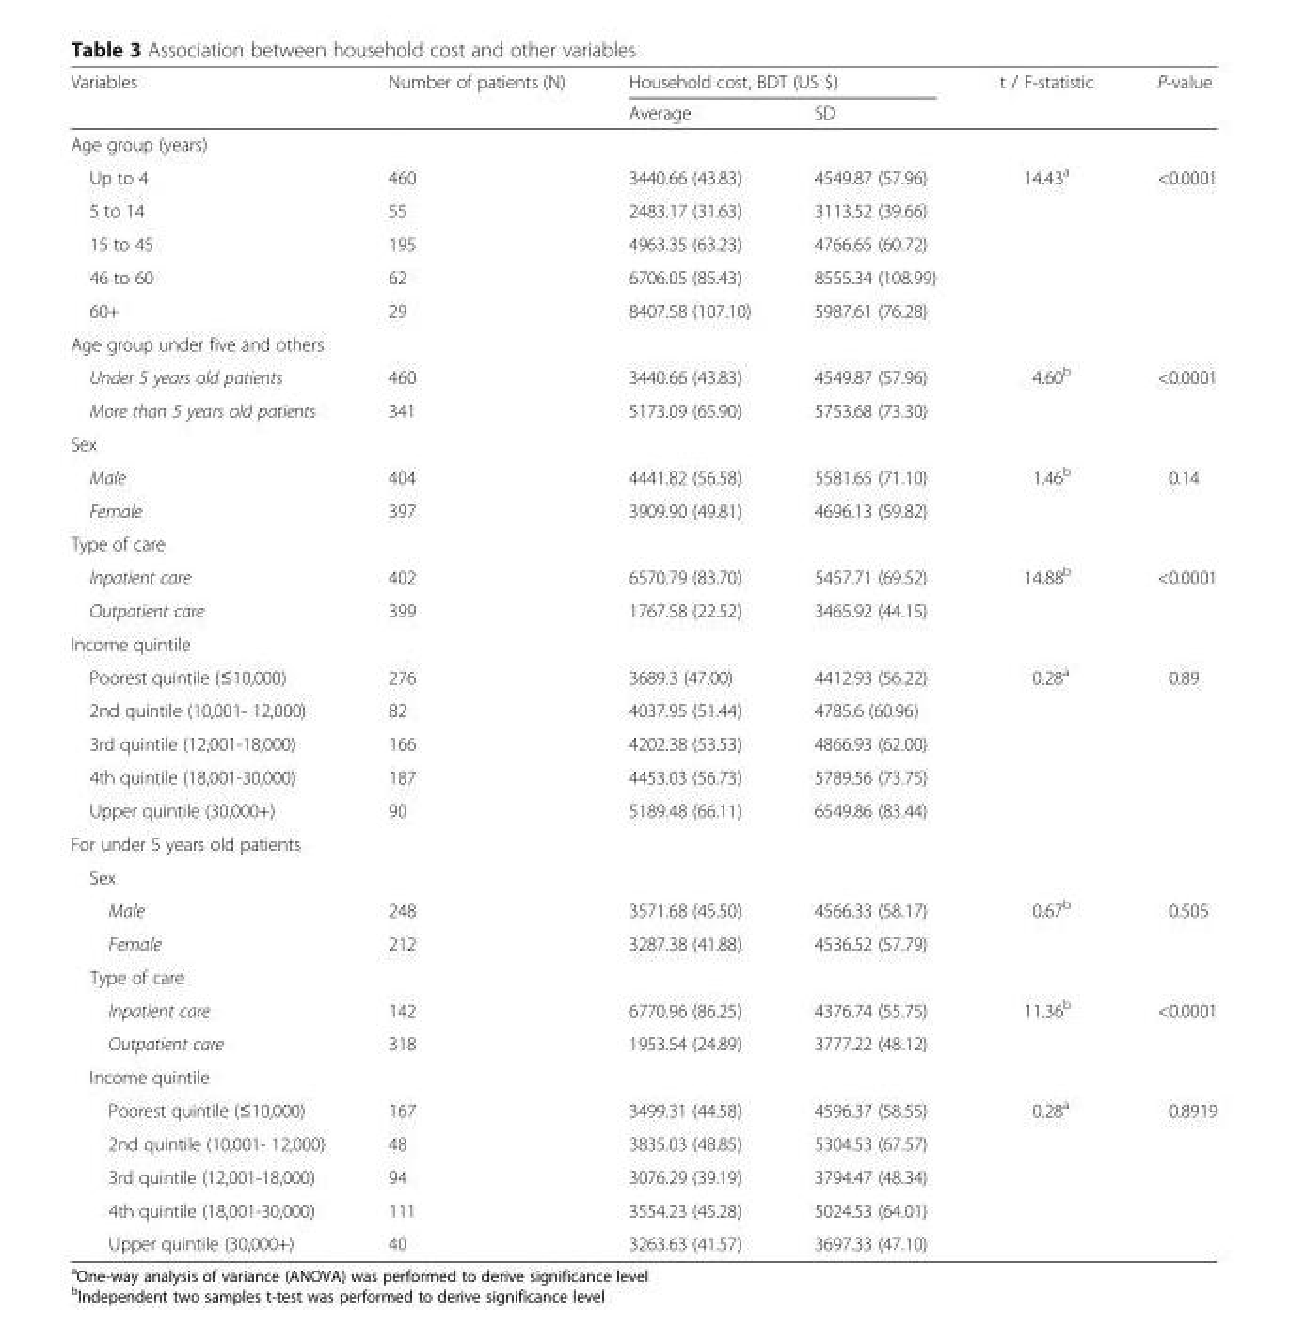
<table><thead><tr><td rowspan="2">Variables</td><td rowspan="2">Number of patients (N)</td><td colspan="2">Household cost, BDT (US $)</td><td rowspan="2">t / F-statistic</td><td rowspan="2">P-value</td></tr><tr><td>Average</td><td>SD</td></tr></thead><tbody><tr><td colspan="6">Age group (years)</td></tr><tr><td>Up to 4</td><td>460</td><td>3440.66 (43.83)</td><td>4549.87 (57.96)</td><td rowspan="5">14.43<sup>a</sup></td><td rowspan="5">&lt;0.0001</td></tr><tr><td>5 to 14</td><td>55</td><td>2483.17 (31.63)</td><td>3113.52 (39.66)</td></tr><tr><td>15 to 45</td><td>195</td><td>4963.35 (63.23)</td><td>4766.65 (60.72)</td></tr><tr><td>46 to 60</td><td>62</td><td>6706.05 (85.43)</td><td>8555.34 (108.99)</td></tr><tr><td>60+</td><td>29</td><td>8407.58 (107.10)</td><td>5987.61 (76.28)</td></tr><tr><td colspan="6">Age group under five and others</td></tr><tr><td>Under 5 years old patients</td><td>460</td><td>3440.66 (43.83)</td><td>4549.87 (57.96)</td><td rowspan="2">4.60<sup>b</sup></td><td rowspan="2">&lt;0.0001</td></tr><tr><td>More than 5 years old patients</td><td>341</td><td>5173.09 (65.90)</td><td>5753.68 (73.30)</td></tr><tr><td colspan="6">Sex</td></tr><tr><td>Male</td><td>404</td><td>4441.82 (56.58)</td><td>5581.65 (71.10)</td><td rowspan="2">1.46<sup>b</sup></td><td rowspan="2">0.14</td></tr><tr><td>Female</td><td>397</td><td>3909.90 (49.81)</td><td>4696.13 (59.82)</td></tr><tr><td colspan="6">Type of care</td></tr><tr><td>Inpatient care</td><td>402</td><td>6570.79 (83.70)</td><td>5457.71 (69.52)</td><td rowspan="2">14.88<sup>b</sup></td><td rowspan="2">&lt;0.0001</td></tr><tr><td>Outpatient care</td><td>399</td><td>1767.58 (22.52)</td><td>3465.92 (44.15)</td></tr><tr><td colspan="6">Income quintile</td></tr><tr><td>Poorest quintile (≤10,000)</td><td>276</td><td>3689.3 (47.00)</td><td>4412.93 (56.22)</td><td rowspan="5">0.28<sup>a</sup></td><td rowspan="5">0.89</td></tr><tr><td>2nd quintile (10,001- 12,000)</td><td>82</td><td>4037.95 (51.44)</td><td>4785.6 (60.96)</td></tr><tr><td>3rd quintile (12,001-18,000)</td><td>166</td><td>4202.38 (53.53)</td><td>4866.93 (62.00)</td></tr><tr><td>4th quintile (18,001-30,000)</td><td>187</td><td>4453.03 (56.73)</td><td>5789.56 (73.75)</td></tr><tr><td>Upper quintile (30,000+)</td><td>90</td><td>5189.48 (66.11)</td><td>6549.86 (83.44)</td></tr><tr><td colspan="6">For under 5 years old patients</td></tr><tr><td colspan="6">Sex</td></tr><tr><td>Male</td><td>248</td><td>3571.68 (45.50)</td><td>4566.33 (58.17)</td><td rowspan="2">0.67<sup>b</sup></td><td rowspan="2">0.505</td></tr><tr><td>Female</td><td>212</td><td>3287.38 (41.88)</td><td>4536.52 (57.79)</td></tr><tr><td colspan="6">Type of care</td></tr><tr><td>Inpatient care</td><td>142</td><td>6770.96 (86.25)</td><td>4376.74 (55.75)</td><td rowspan="2">11.36<sup>b</sup></td><td rowspan="2">&lt;0.0001</td></tr><tr><td>Outpatient care</td><td>318</td><td>1953.54 (24.89)</td><td>3777.22 (48.12)</td></tr><tr><td colspan="6">Income quintile</td></tr><tr><td>Poorest quintile (≤10,000)</td><td>167</td><td>3499.31 (44.58)</td><td>4596.37 (58.55)</td><td rowspan="5">0.28<sup>a</sup></td><td rowspan="5">0.8919</td></tr><tr><td>2nd quintile (10,001- 12,000)</td><td>48</td><td>3835.03 (48.85)</td><td>5304.53 (67.57)</td></tr><tr><td>3rd quintile (12,001-18,000)</td><td>94</td><td>3076.29 (39.19)</td><td>3794.47 (48.34)</td></tr><tr><td>4th quintile (18,001-30,000)</td><td>111</td><td>3554.23 (45.28)</td><td>5024.53 (64.01)</td></tr><tr><td>Upper quintile (30,000+)</td><td>40</td><td>3263.63 (41.57)</td><td>3697.33 (47.10)</td></tr></tbody></table>